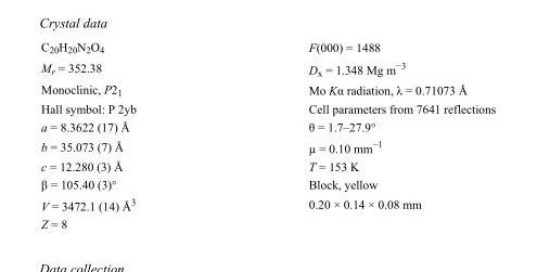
<table><tbody><tr><td>C<sub>20</sub>H<sub>20</sub>N<sub>2</sub>O<sub>4</sub></td><td>F(000) = 1488</td></tr><tr><td>M<sub>r</sub> = 352.38</td><td>D<sub>x</sub> = 1.348 Mg m<sup>−3</sup></td></tr><tr><td>Monoclinic, P2<sub>1</sub></td><td>Mo Kα radiation, λ = 0.71073 Å</td></tr><tr><td>Hall symbol: P 2yb</td><td>Cell parameters from 7641 reflections</td></tr><tr><td>a = 8.3622 (17) Å</td><td>θ = 1.7–27.9°</td></tr><tr><td>b = 35.073 (7) Å</td><td>µ = 0.10 mm<sup>−1</sup></td></tr><tr><td>c = 12.280 (3) Å</td><td>T = 153 K</td></tr><tr><td>β = 105.40 (3)°</td><td>Block, yellow</td></tr><tr><td>V = 3472.1 (14) Å<sup>3</sup></td><td>0.20 × 0.14 × 0.08 mm</td></tr><tr><td>Z = 8</td><td></td></tr></tbody></table>